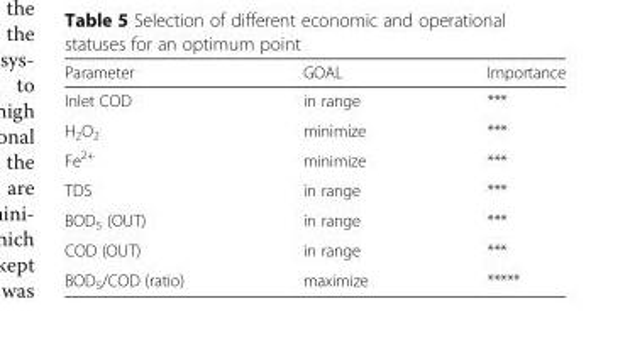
<table><thead><tr><td>Parameter</td><td>GOAL</td><td>Importance</td></tr></thead><tbody><tr><td>Inlet COD</td><td>in range</td><td>***</td></tr><tr><td>H<sub>2</sub>O<sub>2</sub></td><td>minimize</td><td>***</td></tr><tr><td>Fe<sup>2+</sup></td><td>minimize</td><td>***</td></tr><tr><td>TDS</td><td>in range</td><td>***</td></tr><tr><td>BOD<sub>5</sub> (OUT)</td><td>in range</td><td>***</td></tr><tr><td>COD (OUT)</td><td>in range</td><td>***</td></tr><tr><td>BOD<sub>5</sub>/COD (ratio)</td><td>maximize</td><td>*****</td></tr></tbody></table>